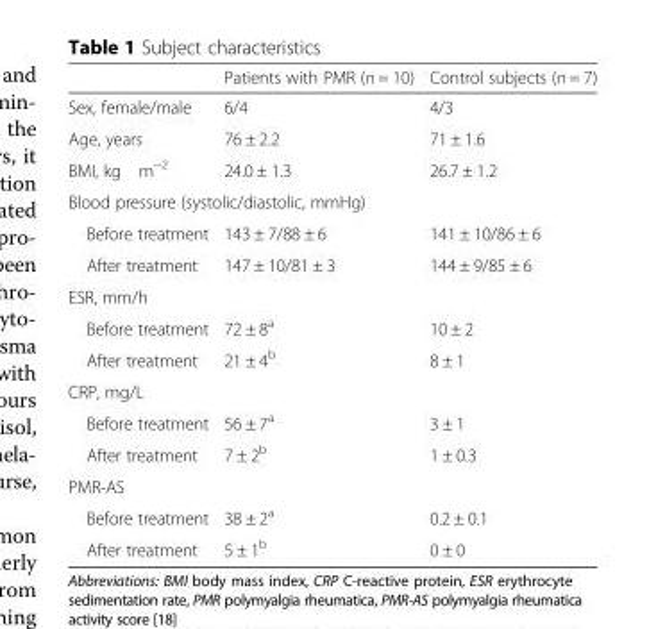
<table><thead><tr><td></td><td>Patients with PMR (n = 10)</td><td>Control subjects (n = 7)</td></tr></thead><tbody><tr><td>Sex, female/male</td><td>6/4</td><td>4/3</td></tr><tr><td>Age, years</td><td>76 ± 2.2</td><td>71 ± 1.6</td></tr><tr><td>BMI, kg m−2</td><td>24.0 ± 1.3</td><td>26.7 ± 1.2</td></tr><tr><td colspan="3">Blood pressure (systolic/diastolic, mmHg)</td></tr><tr><td>Before treatment</td><td>143 ± 7/88 ± 6</td><td>141 ± 10/86 ± 6</td></tr><tr><td>After treatment</td><td>147 ± 10/81 ± 3</td><td>144 ± 9/85 ± 6</td></tr><tr><td colspan="3">ESR, mm/h</td></tr><tr><td>Before treatment</td><td>72 ± 8<sup>a</sup></td><td>10 ± 2</td></tr><tr><td>After treatment</td><td>21 ± 4<sup>b</sup></td><td>8 ± 1</td></tr><tr><td colspan="3">CRP, mg/L</td></tr><tr><td>Before treatment</td><td>56 ± 7<sup>a</sup></td><td>3 ± 1</td></tr><tr><td>After treatment</td><td>7 ± 2<sup>b</sup></td><td>1 ± 0.3</td></tr><tr><td colspan="3">PMR-AS</td></tr><tr><td>Before treatment</td><td>38 ± 2<sup>a</sup></td><td>0.2 ± 0.1</td></tr><tr><td>After treatment</td><td>5 ± 1<sup>b</sup></td><td>0 ± 0</td></tr></tbody></table>